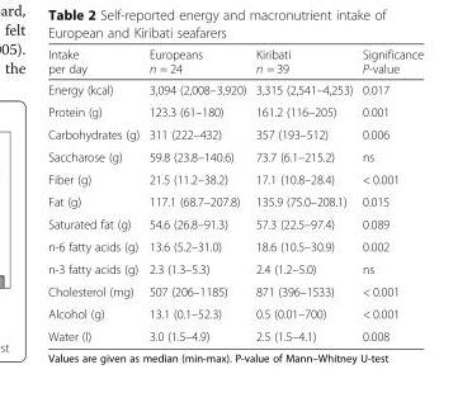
<table><thead><tr><td>Intake per day</td><td>Europeans n = 24</td><td>Kiribati n = 39</td><td>Significance P-value</td></tr></thead><tbody><tr><td>Energy (kcal)</td><td>3,094 (2,008–3,920)</td><td>3,315 (2,541–4,253)</td><td>0.017</td></tr><tr><td>Protein (g)</td><td>123.3 (61–180)</td><td>161.2 (116–205)</td><td>0.001</td></tr><tr><td>Carbohydrates (g)</td><td>311 (222–432)</td><td>357 (193–512)</td><td>0.006</td></tr><tr><td>Saccharose (g)</td><td>59.8 (23.8–140.6)</td><td>73.7 (6.1–215.2)</td><td>ns</td></tr><tr><td>Fiber (g)</td><td>21.5 (11.2–38.2)</td><td>17.1 (10.8–28.4)</td><td>&lt; 0.001</td></tr><tr><td>Fat (g)</td><td>117.1 (68.7–207.8)</td><td>135.9 (75.0–208.1)</td><td>0.015</td></tr><tr><td>Saturated fat (g)</td><td>54.6 (26.8–91.3)</td><td>57.3 (22.5–97.4)</td><td>0.089</td></tr><tr><td>n-6 fatty acids (g)</td><td>13.6 (5.2–31.0)</td><td>18.6 (10.5–30.9)</td><td>0.002</td></tr><tr><td>n-3 fatty acids (g)</td><td>2.3 (1.3–5.3)</td><td>2.4 (1.2–5.0)</td><td>ns</td></tr><tr><td>Cholesterol (mg)</td><td>507 (206–1185)</td><td>871 (396–1533)</td><td>&lt; 0.001</td></tr><tr><td>Alcohol (g)</td><td>13.1 (0.1–52.3)</td><td>0.5 (0.01–700)</td><td>&lt; 0.001</td></tr><tr><td>Water (l)</td><td>3.0 (1.5–4.9)</td><td>2.5 (1.5–4.1)</td><td>0.008</td></tr></tbody></table>